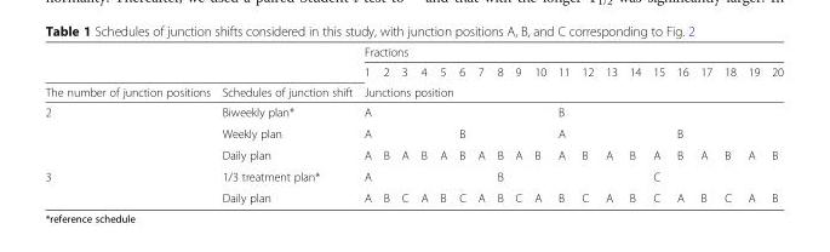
<table><thead><tr><td rowspan="3">The number of junction positions</td><td rowspan="3">Schedules of junction shift</td><td colspan="20">Fractions</td></tr><tr><td>1</td><td>2</td><td>3</td><td>4</td><td>5</td><td>6</td><td>7</td><td>8</td><td>9</td><td>10</td><td>11</td><td>12</td><td>13</td><td>14</td><td>15</td><td>16</td><td>17</td><td>18</td><td>19</td><td>20</td></tr><tr><td colspan="20">Junctions position</td></tr></thead><tbody><tr><td rowspan="3">2</td><td>Biweekly plan*</td><td colspan="10">A</td><td colspan="10">B</td></tr><tr><td>Weekly plan</td><td colspan="5">A</td><td colspan="5">B</td><td colspan="5">A</td><td colspan="5">B</td></tr><tr><td>Daily plan</td><td>A</td><td>B</td><td>A</td><td>B</td><td>A</td><td>B</td><td>A</td><td>B</td><td>A</td><td>B</td><td>A</td><td>B</td><td>A</td><td>B</td><td>A</td><td>B</td><td>A</td><td>B</td><td>A</td><td>B</td></tr><tr><td rowspan="2">3</td><td>1/3 treatment plan*</td><td colspan="7">A</td><td colspan="7">B</td><td colspan="6">C</td></tr><tr><td>Daily plan</td><td>A</td><td>B</td><td>C</td><td>A</td><td>B</td><td>C</td><td>A</td><td>B</td><td>C</td><td>A</td><td>B</td><td>C</td><td>A</td><td>B</td><td>C</td><td>A</td><td>B</td><td>C</td><td>A</td><td>B</td></tr></tbody></table>